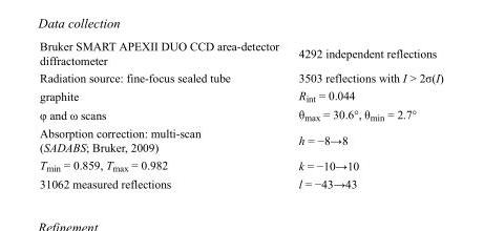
<table><tbody><tr><td>Bruker SMART APEXII DUO CCD area-detector diffractometer</td><td>4292 independent reflections</td></tr><tr><td>Radiation source: fine-focus sealed tube</td><td>3503 reflections with I &gt; 2σ(I)</td></tr><tr><td>graphite</td><td>R<sub>int</sub> = 0.044</td></tr><tr><td>φ and ω scans</td><td>θ<sub>max</sub> = 30.6°, θ<sub>min</sub> = 2.7°</td></tr><tr><td>Absorption correction: multi-scan (SADABS; Bruker, 2009)</td><td>h = −8→8</td></tr><tr><td>T<sub>min</sub> = 0.859, T<sub>max</sub> = 0.982</td><td>k = −10→10</td></tr><tr><td>31062 measured reflections</td><td>l = −43→43</td></tr></tbody></table>